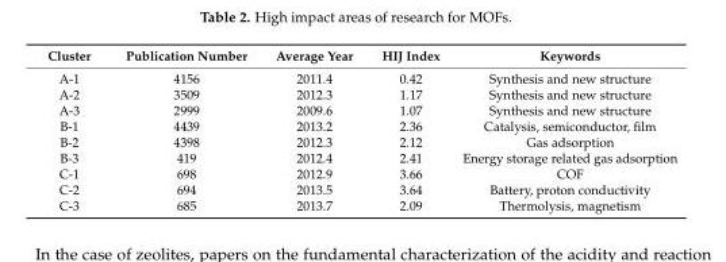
<table><thead><tr><td>Cluster</td><td>Publication Number</td><td>Average Year</td><td>HIJ Index</td><td>Keywords</td></tr></thead><tbody><tr><td>A-1</td><td>4156</td><td>2011.4</td><td>0.42</td><td>Synthesis and new structure</td></tr><tr><td>A-2</td><td>3509</td><td>2012.3</td><td>1.17</td><td>Synthesis and new structure</td></tr><tr><td>A-3</td><td>2999</td><td>2009.6</td><td>1.07</td><td>Synthesis and new structure</td></tr><tr><td>B-1</td><td>4439</td><td>2013.2</td><td>2.36</td><td>Catalysis, semiconductor, film</td></tr><tr><td>B-2</td><td>4398</td><td>2012.3</td><td>2.12</td><td>Gas adsorption</td></tr><tr><td>B-3</td><td>419</td><td>2012.4</td><td>2.41</td><td>Energy storage related gas adsorption</td></tr><tr><td>C-1</td><td>698</td><td>2012.9</td><td>3.66</td><td>COF</td></tr><tr><td>C-2</td><td>694</td><td>2013.5</td><td>3.64</td><td>Battery, proton conductivity</td></tr><tr><td>C-3</td><td>685</td><td>2013.7</td><td>2.09</td><td>Thermolysis, magnetism</td></tr></tbody></table>